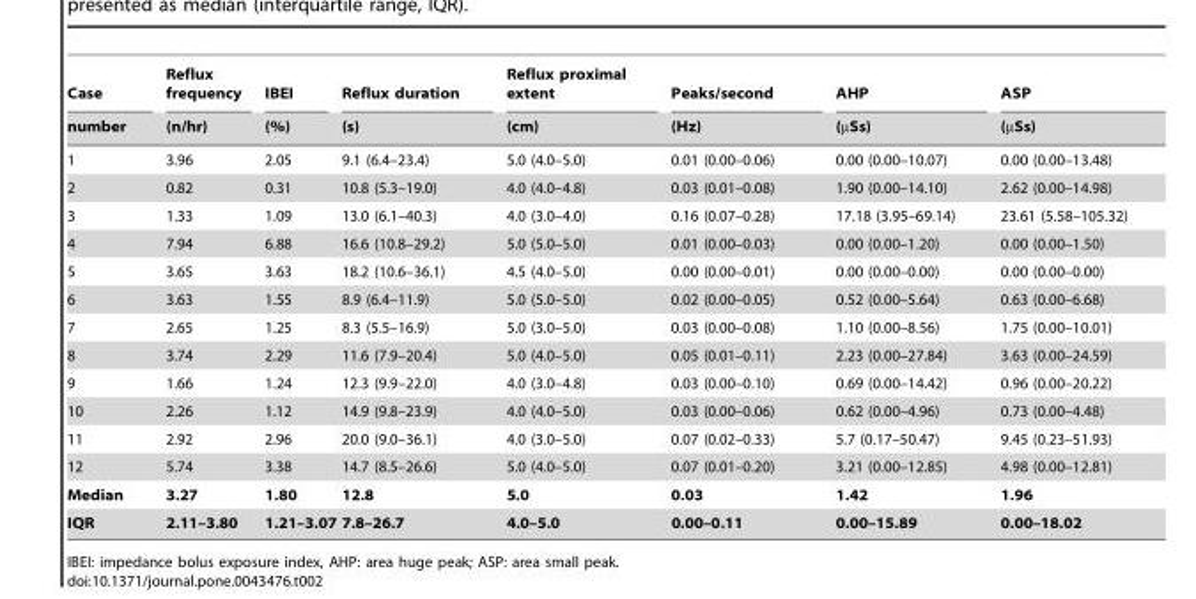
<table><thead><tr><td rowspan="2">Case number</td><td rowspan="2">Reflux frequency (n/hr)</td><td rowspan="2">IBEI (%)</td><td rowspan="2">Reflux duration (s)</td><td rowspan="2">Reflux proximal extent (cm)</td><td rowspan="2">Peaks/second (Hz)</td><td rowspan="2">AHP (µSs)</td><td rowspan="2">ASP (µSs)</td></tr><tr></tr></thead><tbody><tr><td>1</td><td>3.96</td><td>2.05</td><td>9.1 (6.4–23.4)</td><td>5.0 (4.0–5.0)</td><td>0.01 (0.00–0.06)</td><td>0.00 (0.00–10.07)</td><td>0.00 (0.00–13.48)</td></tr><tr><td>2</td><td>0.82</td><td>0.31</td><td>10.8 (5.3–19.0)</td><td>4.0 (4.0–4.8)</td><td>0.03 (0.01–0.08)</td><td>1.90 (0.00–14.10)</td><td>2.62 (0.00–14.98)</td></tr><tr><td>3</td><td>1.33</td><td>1.09</td><td>13.0 (6.1–40.3)</td><td>4.0 (3.0–4.0)</td><td>0.16 (0.07–0.28)</td><td>17.18 (3.95–69.14)</td><td>23.61 (5.58–105.32)</td></tr><tr><td>4</td><td>7.94</td><td>6.88</td><td>16.6 (10.8–29.2)</td><td>5.0 (5.0–5.0)</td><td>0.01 (0.00–0.03)</td><td>0.00 (0.00–1.20)</td><td>0.00 (0.00–1.50)</td></tr><tr><td>5</td><td>3.65</td><td>3.63</td><td>18.2 (10.6–36.1)</td><td>4.5 (4.0–5.0)</td><td>0.00 (0.00–0.01)</td><td>0.00 (0.00–0.00)</td><td>0.00 (0.00–0.00)</td></tr><tr><td>6</td><td>3.63</td><td>1.55</td><td>8.9 (6.4–11.9)</td><td>5.0 (5.0–5.0)</td><td>0.02 (0.00–0.05)</td><td>0.52 (0.00–5.64)</td><td>0.63 (0.00–6.68)</td></tr><tr><td>7</td><td>2.65</td><td>1.25</td><td>8.3 (5.5–16.9)</td><td>5.0 (3.0–5.0)</td><td>0.03 (0.00–0.08)</td><td>1.10 (0.00–8.56)</td><td>1.75 (0.00–10.01)</td></tr><tr><td>8</td><td>3.74</td><td>2.29</td><td>11.6 (7.9–20.4)</td><td>5.0 (4.0–5.0)</td><td>0.05 (0.01–0.11)</td><td>2.23 (0.00–27.84)</td><td>3.63 (0.00–24.59)</td></tr><tr><td>9</td><td>1.66</td><td>1.24</td><td>12.3 (9.9–22.0)</td><td>4.0 (3.0–4.8)</td><td>0.03 (0.00–0.10)</td><td>0.69 (0.00–14.42)</td><td>0.96 (0.00–20.22)</td></tr><tr><td>10</td><td>2.26</td><td>1.12</td><td>14.9 (9.8–23.9)</td><td>4.0 (4.0–5.0)</td><td>0.03 (0.00–0.06)</td><td>0.62 (0.00–4.96)</td><td>0.73 (0.00–4.48)</td></tr><tr><td>11</td><td>2.92</td><td>2.96</td><td>20.0 (9.0–36.1)</td><td>4.0 (3.0–5.0)</td><td>0.07 (0.02–0.33)</td><td>5.7 (0.17–50.47)</td><td>9.45 (0.23–51.93)</td></tr><tr><td>12</td><td>5.74</td><td>3.38</td><td>14.7 (8.5–26.6)</td><td>5.0 (4.0–5.0)</td><td>0.07 (0.01–0.20)</td><td>3.21 (0.00–12.85)</td><td>4.98 (0.00–12.81)</td></tr><tr><td>Median</td><td>3.27</td><td>1.80</td><td>12.8</td><td>5.0</td><td>0.03</td><td>1.42</td><td>1.96</td></tr><tr><td>IQR</td><td>2.11–3.80</td><td>1.21–3.07</td><td>7.8–26.7</td><td>4.0–5.0</td><td>0.00–0.11</td><td>0.00–15.89</td><td>0.00–18.02</td></tr></tbody></table>